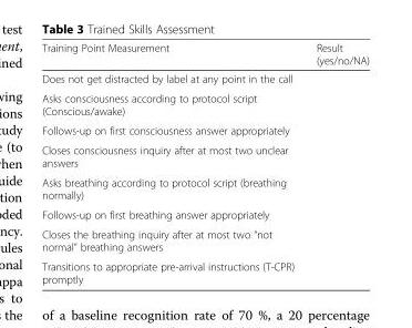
<table><thead><tr><td>Training Point Measurement</td><td>Result (yes/no/NA)</td></tr></thead><tbody><tr><td colspan="2">Does not get distracted by label at any point in the call</td></tr><tr><td colspan="2">Asks consciousness according to protocol script (Conscious/awake)</td></tr><tr><td colspan="2">Follows-up on first consciousness answer appropriately</td></tr><tr><td colspan="2">Closes consciousness inquiry after at most two unclear answers</td></tr><tr><td colspan="2">Asks breathing according to protocol script (breathing normally)</td></tr><tr><td colspan="2">Follows-up on first breathing answer appropriately</td></tr><tr><td colspan="2">Closes the breathing inquiry after at most two “not normal” breathing answers</td></tr><tr><td>Transitions to appropriate pre-arrival instructions (T-CPR) promptly</td><td></td></tr></tbody></table>